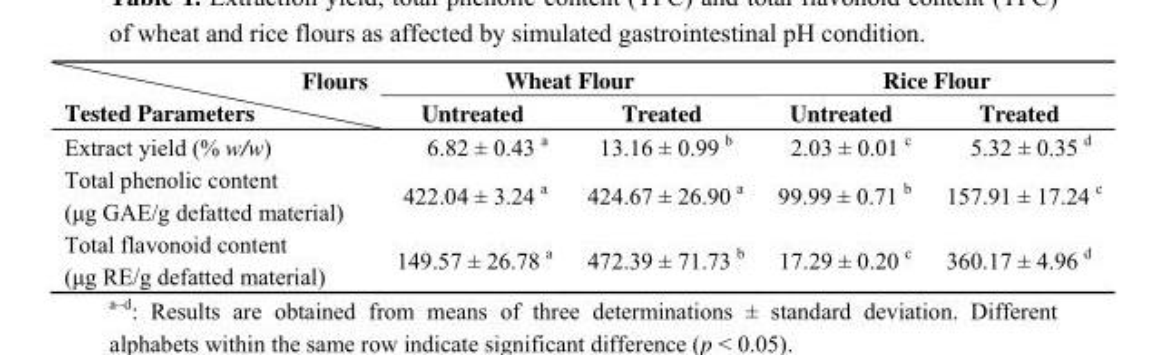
<table><thead><tr><td rowspan="2">Flours Tested Parameters</td><td colspan="2">Wheat Flour</td><td colspan="2">Rice Flour</td></tr><tr><td>Untreated</td><td>Treated</td><td>Untreated</td><td>Treated</td></tr></thead><tbody><tr><td>Extract yield (% w/w)</td><td>6.82 ± 0.43 a</td><td>13.16 ± 0.99 b</td><td>2.03 ± 0.01 c</td><td>5.32 ± 0.35 d</td></tr><tr><td>Total phenolic content (μg GAE/g defatted material)</td><td>422.04 ± 3.24 a</td><td>424.67 ± 26.90 a</td><td>99.99 ± 0.71 b</td><td>157.91 ± 17.24 c</td></tr><tr><td>Total flavonoid content (μg RE/g defatted material)</td><td>149.57 ± 26.78 a</td><td>472.39 ± 71.73 b</td><td>17.29 ± 0.20 c</td><td>360.17 ± 4.96 d</td></tr></tbody></table>